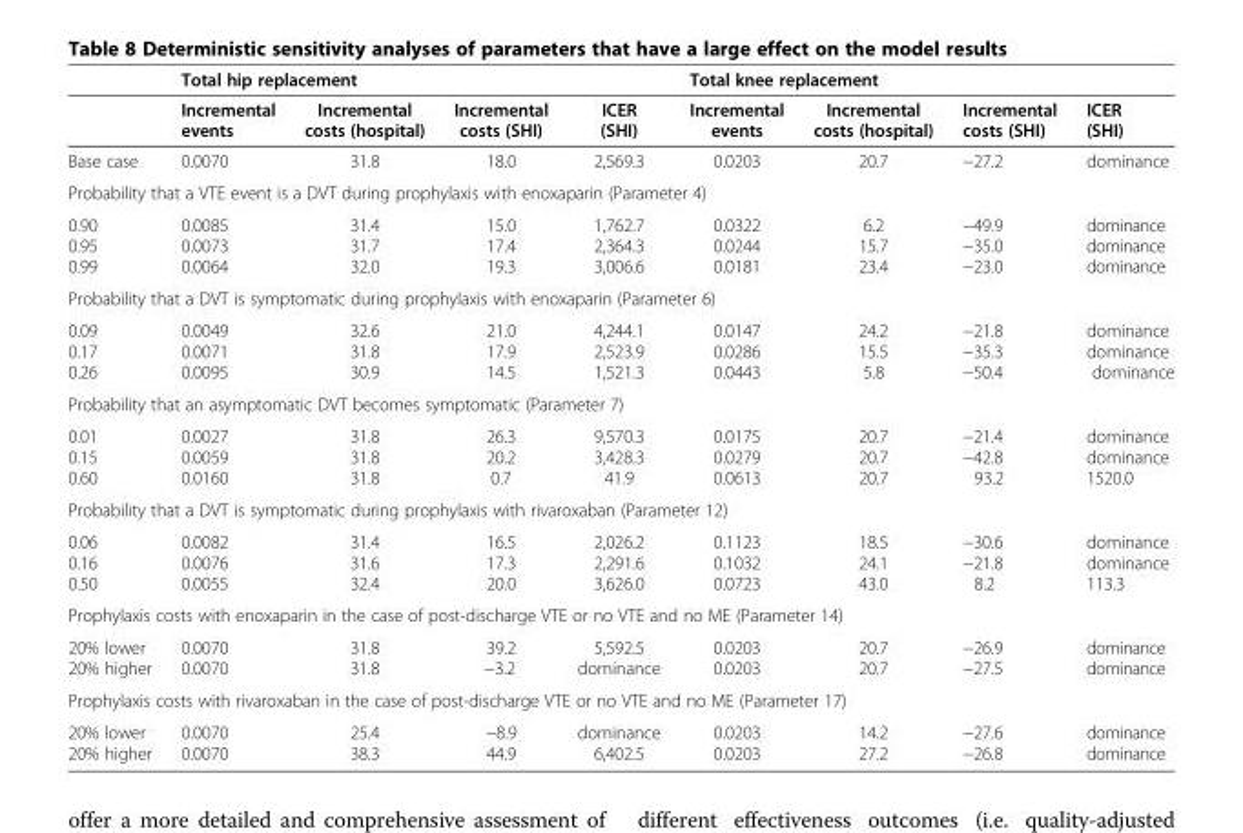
<table><thead><tr><td rowspan="2"></td><td colspan="4">Total hip replacement</td><td colspan="4">Total knee replacement</td></tr><tr><td>Incremental events</td><td>Incremental costs (hospital)</td><td>Incremental costs (SHI)</td><td>ICER (SHI)</td><td>Incremental events</td><td>Incremental costs (hospital)</td><td>Incremental costs (SHI)</td><td>ICER (SHI)</td></tr></thead><tbody><tr><td>Base case</td><td>0.0070</td><td>31.8</td><td>18.0</td><td>2,569.3</td><td>0.0203</td><td>20.7</td><td>−27.2</td><td>dominance</td></tr><tr><td colspan="9">Probability that a VTE event is a DVT during prophylaxis with enoxaparin (Parameter 4)</td></tr><tr><td>0.90 0.95 0.99</td><td>0.0085 0.0073 0.0064</td><td>31.4 31.7 32.0</td><td>15.0 17.4 19.3</td><td>1,762.7 2,364.3 3,006.6</td><td>0.0322 0.0244 0.0181</td><td>6.2 15.7 23.4</td><td>−49.9 −35.0 −23.0</td><td>dominance dominance dominance</td></tr><tr><td colspan="9">Probability that a DVT is symptomatic during prophylaxis with enoxaparin (Parameter 6)</td></tr><tr><td>0.09 0.17 0.26</td><td>0.0049 0.0071 0.0095</td><td>32.6 31.8 30.9</td><td>21.0 17.9 14.5</td><td>4,244.1 2,523.9 1,521.3</td><td>0.0147 0.0286 0.0443</td><td>24.2 15.5 5.8</td><td>−21.8 −35.3 −50.4</td><td>dominance dominance dominance</td></tr><tr><td colspan="9">Probability that an asymptomatic DVT becomes symptomatic (Parameter 7)</td></tr><tr><td>0.01 0.15 0.60</td><td>0.0027 0.0059 0.0160</td><td>31.8 31.8 31.8</td><td>26.3 20.2 0.7</td><td>9,570.3 3,428.3 41.9</td><td>0.0175 0.0279 0.0613</td><td>20.7 20.7 20.7</td><td>−21.4 −42.8 93.2</td><td>dominance dominance 1520.0</td></tr><tr><td colspan="9">Probability that a DVT is symptomatic during prophylaxis with rivaroxaban (Parameter 12)</td></tr><tr><td>0.06 0.16 0.50</td><td>0.0082 0.0076 0.0055</td><td>31.4 31.6 32.4</td><td>16.5 17.3 20.0</td><td>2,026.2 2,291.6 3,626.0</td><td>0.1123 0.1032 0.0723</td><td>18.5 24.1 43.0</td><td>−30.6 −21.8 8.2</td><td>dominance dominance 113.3</td></tr><tr><td colspan="9">Prophylaxis costs with enoxaparin in the case of post-discharge VTE or no VTE and no ME (Parameter 14)</td></tr><tr><td>20% lower 20% higher</td><td>0.0070 0.0070</td><td>31.8 31.8</td><td>39.2 −3.2</td><td>5,592.5 dominance</td><td>0.0203 0.0203</td><td>20.7 20.7</td><td>−26.9 −27.5</td><td>dominance dominance</td></tr><tr><td colspan="9">Prophylaxis costs with rivaroxaban in the case of post-discharge VTE or no VTE and no ME (Parameter 17)</td></tr><tr><td>20% lower 20% higher</td><td>0.0070 0.0070</td><td>25.4 38.3</td><td>−8.9 44.9</td><td>dominance 6,402.5</td><td>0.0203 0.0203</td><td>14.2 27.2</td><td>−27.6 −26.8</td><td>dominance dominance</td></tr></tbody></table>